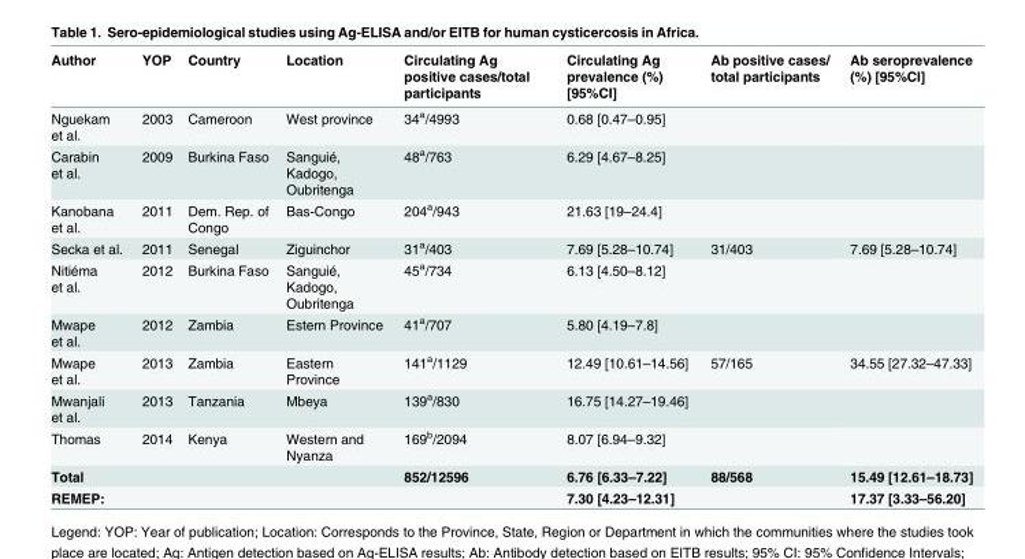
<table><thead><tr><td>Author</td><td>YOP</td><td>Country</td><td>Location</td><td>Circulating Ag positive cases/total participants</td><td>Circulating Ag prevalence (%) [95%CI]</td><td>Ab positive cases/ total participants</td><td>Ab seroprevalence (%) [95%CI]</td></tr></thead><tbody><tr><td>Nguekam et al.</td><td>2003</td><td>Cameroon</td><td>West province</td><td>34<sup>a</sup>/4993</td><td>0.68 [0.47–0.95]</td><td></td><td></td></tr><tr><td>Carabin et al.</td><td>2009</td><td>Burkina Faso</td><td>Sanguié, Kadogo, Oubritenga</td><td>48<sup>a</sup>/763</td><td>6.29 [4.67–8.25]</td><td></td><td></td></tr><tr><td>Kanobana et al.</td><td>2011</td><td>Dem. Rep. of Congo</td><td>Bas-Congo</td><td>204<sup>a</sup>/943</td><td>21.63 [19–24.4]</td><td></td><td></td></tr><tr><td>Secka et al.</td><td>2011</td><td>Senegal</td><td>Ziguinchor</td><td>31<sup>a</sup>/403</td><td>7.69 [5.28–10.74]</td><td>31/403</td><td>7.69 [5.28–10.74]</td></tr><tr><td>Nitiéma et al.</td><td>2012</td><td>Burkina Faso</td><td>Sanguié, Kadogo, Oubritenga</td><td>45<sup>a</sup>/734</td><td>6.13 [4.50–8.12]</td><td></td><td></td></tr><tr><td>Mwape et al.</td><td>2012</td><td>Zambia</td><td>Estern Province</td><td>41<sup>a</sup>/707</td><td>5.80 [4.19–7.8]</td><td></td><td></td></tr><tr><td>Mwape et al.</td><td>2013</td><td>Zambia</td><td>Eastern Province</td><td>141<sup>a</sup>/1129</td><td>12.49 [10.61–14.56]</td><td>57/165</td><td>34.55 [27.32–47.33]</td></tr><tr><td>Mwanjali et al.</td><td>2013</td><td>Tanzania</td><td>Mbeya</td><td>139<sup>a</sup>/830</td><td>16.75 [14.27–19.46]</td><td></td><td></td></tr><tr><td>Thomas</td><td>2014</td><td>Kenya</td><td>Western and Nyanza</td><td>169<sup>b</sup>/2094</td><td>8.07 [6.94–9.32]</td><td></td><td></td></tr><tr><td>Total</td><td></td><td></td><td></td><td>852/12596</td><td>6.76 [6.33–7.22]</td><td>88/568</td><td>15.49 [12.61–18.73]</td></tr><tr><td>REMEP:</td><td></td><td></td><td></td><td></td><td>7.30 [4.23–12.31]</td><td></td><td>17.37 [3.33–56.20]</td></tr></tbody></table>